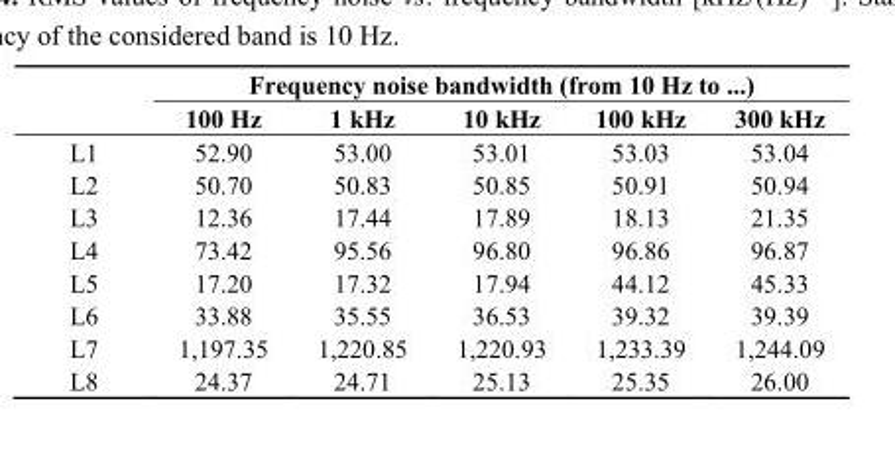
<table><thead><tr><td rowspan="2"></td><td colspan="5">Frequency noise bandwidth (from 10 Hz to ...)</td></tr><tr><td>100 Hz</td><td>1 kHz</td><td>10 kHz</td><td>100 kHz</td><td>300 kHz</td></tr></thead><tbody><tr><td>L1</td><td>52.90</td><td>53.00</td><td>53.01</td><td>53.03</td><td>53.04</td></tr><tr><td>L2</td><td>50.70</td><td>50.83</td><td>50.85</td><td>50.91</td><td>50.94</td></tr><tr><td>L3</td><td>12.36</td><td>17.44</td><td>17.89</td><td>18.13</td><td>21.35</td></tr><tr><td>L4</td><td>73.42</td><td>95.56</td><td>96.80</td><td>96.86</td><td>96.87</td></tr><tr><td>L5</td><td>17.20</td><td>17.32</td><td>17.94</td><td>44.12</td><td>45.33</td></tr><tr><td>L6</td><td>33.88</td><td>35.55</td><td>36.53</td><td>39.32</td><td>39.39</td></tr><tr><td>L7</td><td>1,197.35</td><td>1,220.85</td><td>1,220.93</td><td>1,233.39</td><td>1,244.09</td></tr><tr><td>L8</td><td>24.37</td><td>24.71</td><td>25.13</td><td>25.35</td><td>26.00</td></tr></tbody></table>